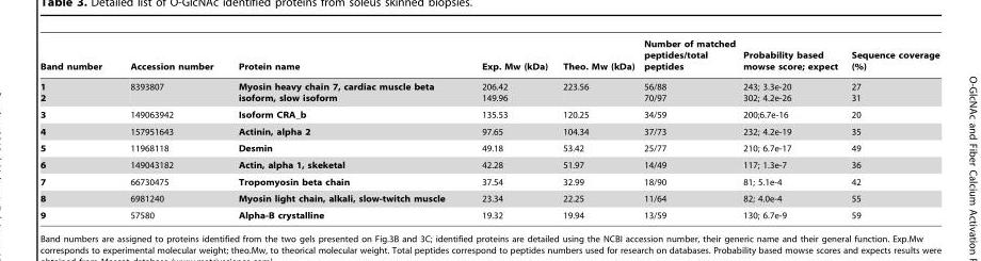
<table><thead><tr><td>Band number</td><td>Accession number</td><td>Protein name</td><td>Exp. Mw (kDa)</td><td>Theo. Mw (kDa)</td><td>Number of matched peptides/total peptides</td><td>Probability based mowse score; expect</td><td>Sequence coverage (%)</td></tr></thead><tbody><tr><td>1 2</td><td>8393807</td><td>Myosin heavy chain 7, cardiac muscle beta isoform, slow isoform</td><td>206.42 149.96</td><td>223.56</td><td>56/88 70/97</td><td>243; 3.3e-20 302; 4.2e-26</td><td>27 31</td></tr><tr><td>3</td><td>149063942</td><td>Isoform CRA_b</td><td>135.53</td><td>120.25</td><td>34/59</td><td>200;6.7e-16</td><td>20</td></tr><tr><td>4</td><td>157951643</td><td>Actinin, alpha 2</td><td>97.65</td><td>104.34</td><td>37/73</td><td>232; 4.2e-19</td><td>35</td></tr><tr><td>5</td><td>11968118</td><td>Desmin</td><td>49.18</td><td>53.42</td><td>25/77</td><td>210; 6.7e-17</td><td>49</td></tr><tr><td>6</td><td>149043182</td><td>Actin, alpha 1, skeketal</td><td>42.28</td><td>51.97</td><td>14/49</td><td>117; 1.3e-7</td><td>36</td></tr><tr><td>7</td><td>66730475</td><td>Tropomyosin beta chain</td><td>37.54</td><td>32.99</td><td>18/90</td><td>81; 5.1e-4</td><td>42</td></tr><tr><td>8</td><td>6981240</td><td>Myosin light chain, alkali, slow-twitch muscle</td><td>23.34</td><td>22.25</td><td>11/64</td><td>82; 4.0e-4</td><td>55</td></tr><tr><td>9</td><td>57580</td><td>Alpha-B crystalline</td><td>19.32</td><td>19.94</td><td>13/59</td><td>130; 6.7e-9</td><td>59</td></tr></tbody></table>